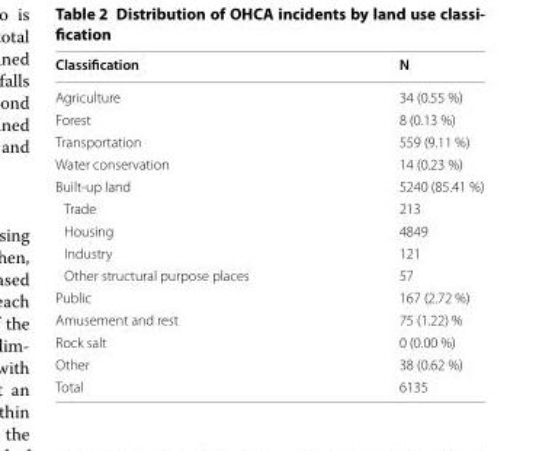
<table><thead><tr><td>Classification</td><td>N</td></tr></thead><tbody><tr><td>Agriculture</td><td>34 (0.55 %)</td></tr><tr><td>Forest</td><td>8 (0.13 %)</td></tr><tr><td>Transportation</td><td>559 (9.11 %)</td></tr><tr><td>Water conservation</td><td>14 (0.23 %)</td></tr><tr><td>Built‑up land</td><td>5240 (85.41 %)</td></tr><tr><td>Trade</td><td>213</td></tr><tr><td>Housing</td><td>4849</td></tr><tr><td>Industry</td><td>121</td></tr><tr><td>Other structural purpose places</td><td>57</td></tr><tr><td>Public</td><td>167 (2.72 %)</td></tr><tr><td>Amusement and rest</td><td>75 (1.22) %</td></tr><tr><td>Rock salt</td><td>0 (0.00 %)</td></tr><tr><td>Other</td><td>38 (0.62 %)</td></tr><tr><td>Total</td><td>6135</td></tr></tbody></table>